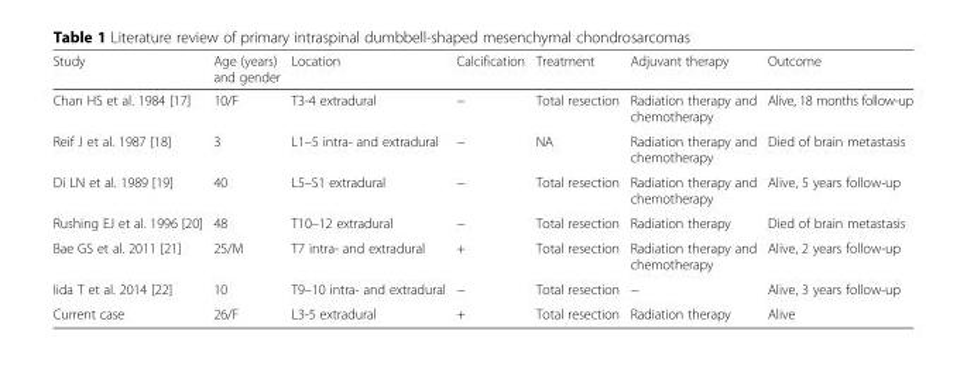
<table><thead><tr><td>Study</td><td>Age (years) and gender</td><td>Location</td><td>Calcification</td><td>Treatment</td><td>Adjuvant therapy</td><td>Outcome</td></tr></thead><tbody><tr><td>Chan HS et al. 1984 [17]</td><td>10/F</td><td>T3-4 extradural</td><td>−</td><td>Total resection</td><td>Radiation therapy and chemotherapy</td><td>Alive, 18 months follow-up</td></tr><tr><td>Reif J et al. 1987 [18]</td><td>3</td><td>L1–5 intra- and extradural</td><td>−</td><td>NA</td><td>Radiation therapy and chemotherapy</td><td>Died of brain metastasis</td></tr><tr><td>Di LN et al. 1989 [19]</td><td>40</td><td>L5–S1 extradural</td><td>−</td><td>Total resection</td><td>Radiation therapy and chemotherapy</td><td>Alive, 5 years follow-up</td></tr><tr><td>Rushing EJ et al. 1996 [20]</td><td>48</td><td>T10–12 extradural</td><td>−</td><td>Total resection</td><td>Radiation therapy</td><td>Died of brain metastasis</td></tr><tr><td>Bae GS et al. 2011 [21]</td><td>25/M</td><td>T7 intra- and extradural</td><td>+</td><td>Total resection</td><td>Radiation therapy and chemotherapy</td><td>Alive, 2 years follow-up</td></tr><tr><td>Iida T et al. 2014 [22]</td><td>10</td><td>T9–10 intra- and extradural</td><td>−</td><td>Total resection</td><td>−</td><td>Alive, 3 years follow-up</td></tr><tr><td>Current case</td><td>26/F</td><td>L3-5 extradural</td><td>+</td><td>Total resection</td><td>Radiation therapy</td><td>Alive</td></tr></tbody></table>